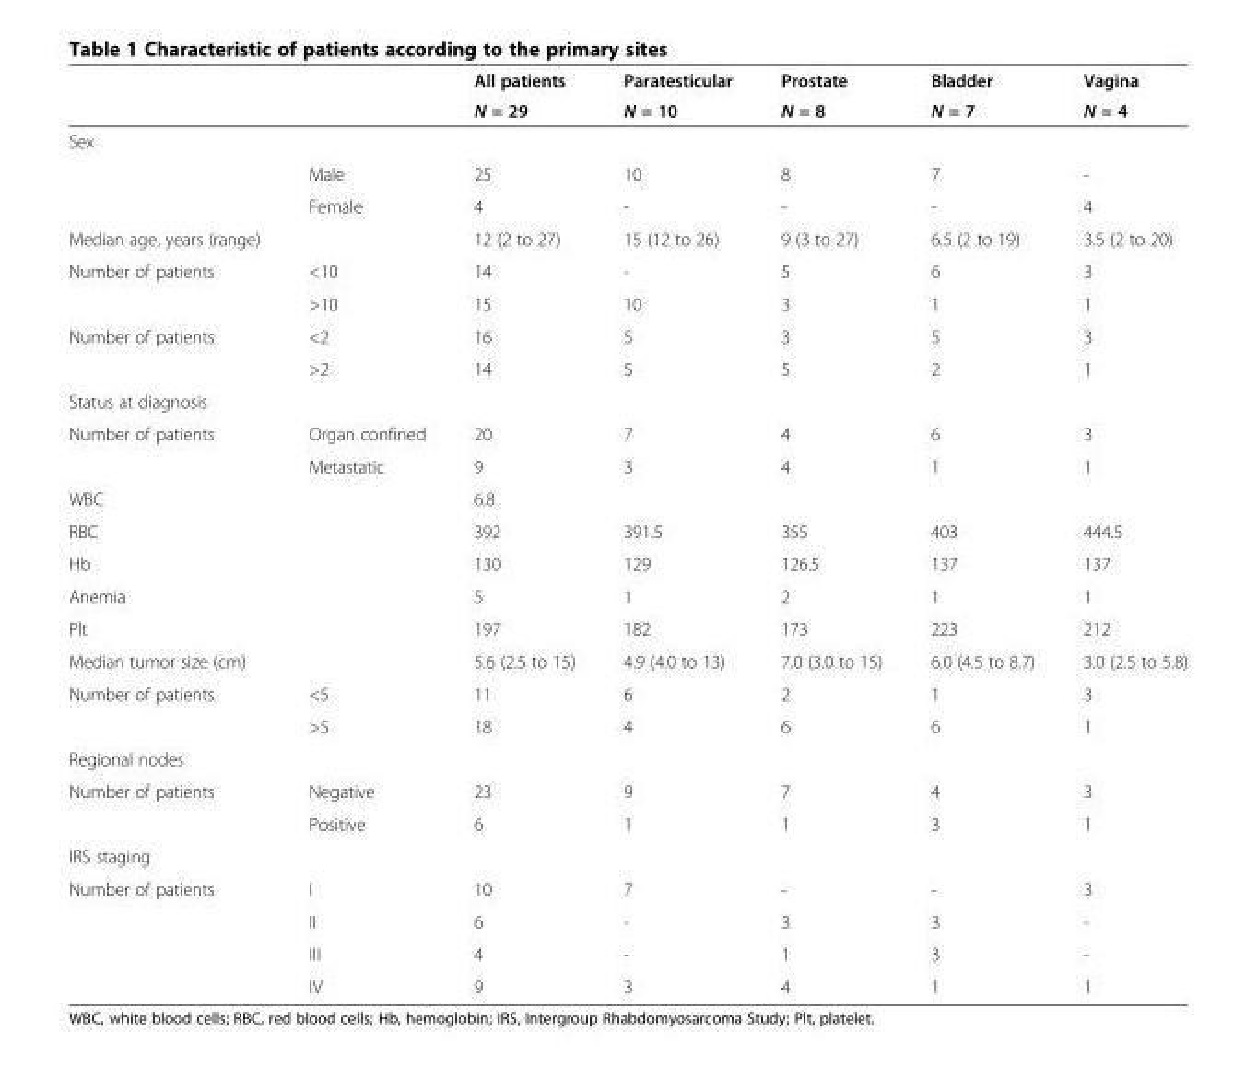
<table><thead><tr><td rowspan="2"></td><td rowspan="2"></td><td rowspan="2">All patients N = 29</td><td rowspan="2">Paratesticular N = 10</td><td rowspan="2">Prostate N = 8</td><td rowspan="2">Bladder N = 7</td><td rowspan="2">Vagina N = 4</td></tr><tr></tr></thead><tbody><tr><td colspan="7">Sex</td></tr><tr><td></td><td>Male</td><td>25</td><td>10</td><td>8</td><td>7</td><td>-</td></tr><tr><td></td><td>Female</td><td>4</td><td>-</td><td>-</td><td>-</td><td>4</td></tr><tr><td>Median age, years (range)</td><td></td><td>12 (2 to 27)</td><td>15 (12 to 26)</td><td>9 (3 to 27)</td><td>6.5 (2 to 19)</td><td>3.5 (2 to 20)</td></tr><tr><td rowspan="2">Number of patients</td><td>&lt;10</td><td>14</td><td>-</td><td>5</td><td>6</td><td>3</td></tr><tr><td>&gt;10</td><td>15</td><td>10</td><td>3</td><td>1</td><td>1</td></tr><tr><td rowspan="2">Number of patients</td><td>&lt;2</td><td>16</td><td>5</td><td>3</td><td>5</td><td>3</td></tr><tr><td>&gt;2</td><td>14</td><td>5</td><td>5</td><td>2</td><td>1</td></tr><tr><td colspan="7">Status at diagnosis</td></tr><tr><td rowspan="2">Number of patients</td><td>Organ confined</td><td>20</td><td>7</td><td>4</td><td>6</td><td>3</td></tr><tr><td>Metastatic</td><td>9</td><td>3</td><td>4</td><td>1</td><td>1</td></tr><tr><td>WBC</td><td></td><td>6.8</td><td></td><td></td><td></td><td></td></tr><tr><td>RBC</td><td></td><td>392</td><td>391.5</td><td>355</td><td>403</td><td>444.5</td></tr><tr><td>Hb</td><td></td><td>130</td><td>129</td><td>126.5</td><td>137</td><td>137</td></tr><tr><td>Anemia</td><td></td><td>5</td><td>1</td><td>2</td><td>1</td><td>1</td></tr><tr><td>Plt</td><td></td><td>197</td><td>182</td><td>173</td><td>223</td><td>212</td></tr><tr><td>Median tumor size (cm)</td><td></td><td>5.6 (2.5 to 15)</td><td>4.9 (4.0 to 13)</td><td>7.0 (3.0 to 15)</td><td>6.0 (4.5 to 8.7)</td><td>3.0 (2.5 to 5.8)</td></tr><tr><td rowspan="2">Number of patients</td><td>&lt;5</td><td>11</td><td>6</td><td>2</td><td>1</td><td>3</td></tr><tr><td>&gt;5</td><td>18</td><td>4</td><td>6</td><td>6</td><td>1</td></tr><tr><td colspan="7">Regional nodes</td></tr><tr><td rowspan="2">Number of patients</td><td>Negative</td><td>23</td><td>9</td><td>7</td><td>4</td><td>3</td></tr><tr><td>Positive</td><td>6</td><td>1</td><td>1</td><td>3</td><td>1</td></tr><tr><td colspan="7">IRS staging</td></tr><tr><td rowspan="4">Number of patients</td><td>I</td><td>10</td><td>7</td><td>-</td><td>-</td><td>3</td></tr><tr><td>II</td><td>6</td><td>-</td><td>3</td><td>3</td><td>-</td></tr><tr><td>III</td><td>4</td><td>-</td><td>1</td><td>3</td><td>-</td></tr><tr><td>IV</td><td>9</td><td>3</td><td>4</td><td>1</td><td>1</td></tr></tbody></table>